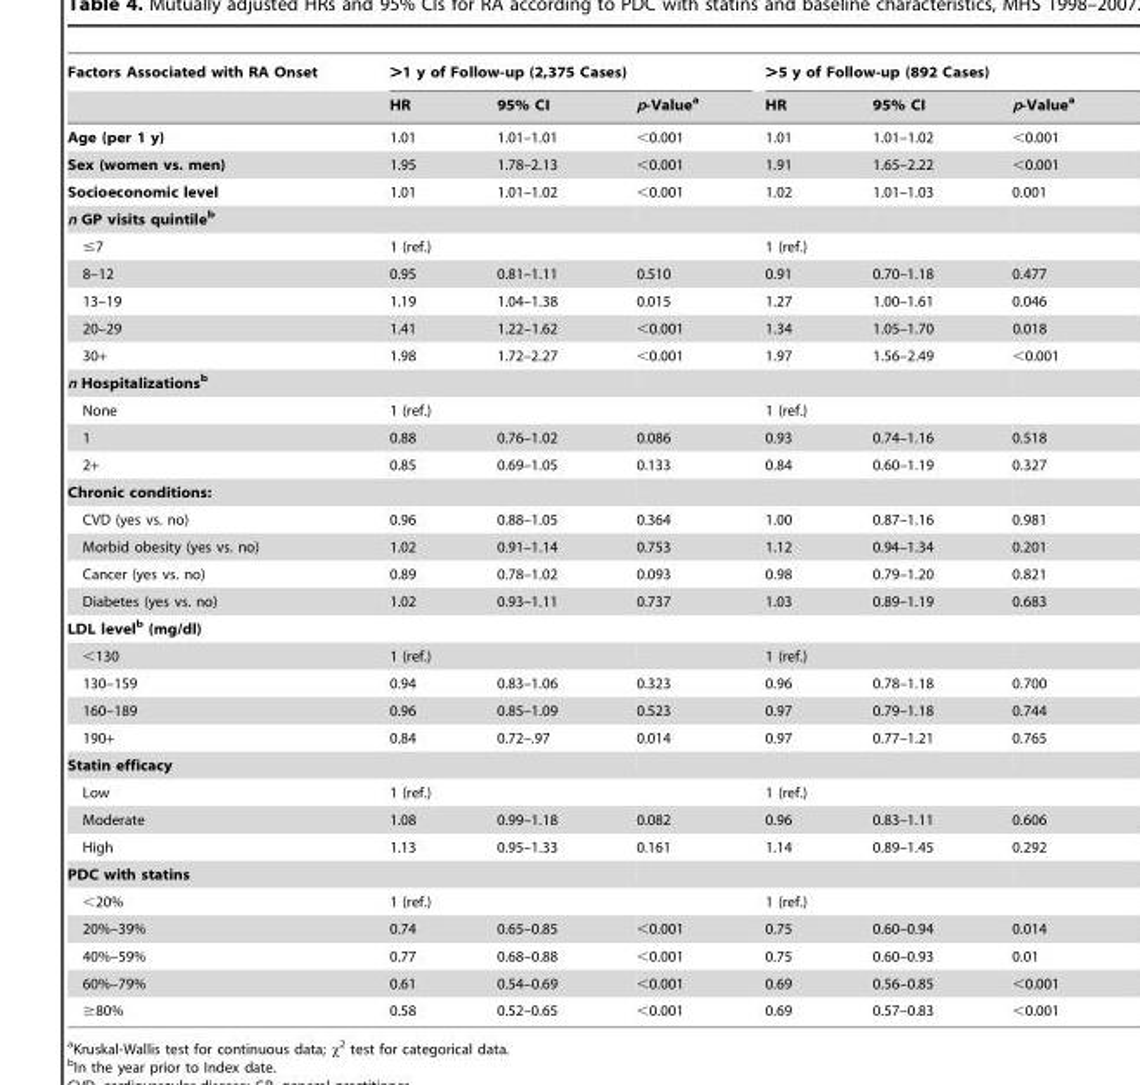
<table><thead><tr><td rowspan="2">Factors Associated with RA Onset</td><td colspan="3">&gt;1 y of Follow-up (2,375 Cases)</td><td colspan="3">&gt;5 y of Follow-up (892 Cases)</td></tr><tr><td>HR</td><td>95% CI</td><td>p-Value<sup>a</sup></td><td>HR</td><td>95% CI</td><td>p-Value<sup>a</sup></td></tr></thead><tbody><tr><td>Age (per 1 y)</td><td>1.01</td><td>1.01–1.01</td><td>&lt;0.001</td><td>1.01</td><td>1.01–1.02</td><td>&lt;0.001</td></tr><tr><td>Sex (women vs. men)</td><td>1.95</td><td>1.78–2.13</td><td>&lt;0.001</td><td>1.91</td><td>1.65–2.22</td><td>&lt;0.001</td></tr><tr><td>Socioeconomic level</td><td>1.01</td><td>1.01–1.02</td><td>&lt;0.001</td><td>1.02</td><td>1.01–1.03</td><td>0.001</td></tr><tr><td colspan="7">n GP visits quintileb</td></tr><tr><td>≤7</td><td>1 (ref.)</td><td></td><td></td><td>1 (ref.)</td><td></td><td></td></tr><tr><td>8–12</td><td>0.95</td><td>0.81–1.11</td><td>0.510</td><td>0.91</td><td>0.70–1.18</td><td>0.477</td></tr><tr><td>13–19</td><td>1.19</td><td>1.04–1.38</td><td>0.015</td><td>1.27</td><td>1.00–1.61</td><td>0.046</td></tr><tr><td>20–29</td><td>1.41</td><td>1.22–1.62</td><td>&lt;0.001</td><td>1.34</td><td>1.05–1.70</td><td>0.018</td></tr><tr><td>30+</td><td>1.98</td><td>1.72–2.27</td><td>&lt;0.001</td><td>1.97</td><td>1.56–2.49</td><td>&lt;0.001</td></tr><tr><td colspan="7">n Hospitalizationsb</td></tr><tr><td>None</td><td>1 (ref.)</td><td></td><td></td><td>1 (ref.)</td><td></td><td></td></tr><tr><td>1</td><td>0.88</td><td>0.76–1.02</td><td>0.086</td><td>0.93</td><td>0.74–1.16</td><td>0.518</td></tr><tr><td>2+</td><td>0.85</td><td>0.69–1.05</td><td>0.133</td><td>0.84</td><td>0.60–1.19</td><td>0.327</td></tr><tr><td colspan="7">Chronic conditions:</td></tr><tr><td>CVD (yes vs. no)</td><td>0.96</td><td>0.88–1.05</td><td>0.364</td><td>1.00</td><td>0.87–1.16</td><td>0.981</td></tr><tr><td>Morbid obesity (yes vs. no)</td><td>1.02</td><td>0.91–1.14</td><td>0.753</td><td>1.12</td><td>0.94–1.34</td><td>0.201</td></tr><tr><td>Cancer (yes vs. no)</td><td>0.89</td><td>0.78–1.02</td><td>0.093</td><td>0.98</td><td>0.79–1.20</td><td>0.821</td></tr><tr><td>Diabetes (yes vs. no)</td><td>1.02</td><td>0.93–1.11</td><td>0.737</td><td>1.03</td><td>0.89–1.19</td><td>0.683</td></tr><tr><td colspan="7">LDL levelb (mg/dl)</td></tr><tr><td>&lt;130</td><td>1 (ref.)</td><td></td><td></td><td>1 (ref.)</td><td></td><td></td></tr><tr><td>130–159</td><td>0.94</td><td>0.83–1.06</td><td>0.323</td><td>0.96</td><td>0.78–1.18</td><td>0.700</td></tr><tr><td>160–189</td><td>0.96</td><td>0.85–1.09</td><td>0.523</td><td>0.97</td><td>0.79–1.18</td><td>0.744</td></tr><tr><td>190+</td><td>0.84</td><td>0.72–.97</td><td>0.014</td><td>0.97</td><td>0.77–1.21</td><td>0.765</td></tr><tr><td colspan="7">Statin efficacy</td></tr><tr><td>Low</td><td>1 (ref.)</td><td></td><td></td><td>1 (ref.)</td><td></td><td></td></tr><tr><td>Moderate</td><td>1.08</td><td>0.99–1.18</td><td>0.082</td><td>0.96</td><td>0.83–1.11</td><td>0.606</td></tr><tr><td>High</td><td>1.13</td><td>0.95–1.33</td><td>0.161</td><td>1.14</td><td>0.89–1.45</td><td>0.292</td></tr><tr><td colspan="7">PDC with statins</td></tr><tr><td>&lt;20%</td><td>1 (ref.)</td><td></td><td></td><td>1 (ref.)</td><td></td><td></td></tr><tr><td>20%–39%</td><td>0.74</td><td>0.65–0.85</td><td>&lt;0.001</td><td>0.75</td><td>0.60–0.94</td><td>0.014</td></tr><tr><td>40%–59%</td><td>0.77</td><td>0.68–0.88</td><td>&lt;0.001</td><td>0.75</td><td>0.60–0.93</td><td>0.01</td></tr><tr><td>60%–79%</td><td>0.61</td><td>0.54–0.69</td><td>&lt;0.001</td><td>0.69</td><td>0.56–0.85</td><td>&lt;0.001</td></tr><tr><td>≥80%</td><td>0.58</td><td>0.52–0.65</td><td>&lt;0.001</td><td>0.69</td><td>0.57–0.83</td><td>&lt;0.001</td></tr></tbody></table>